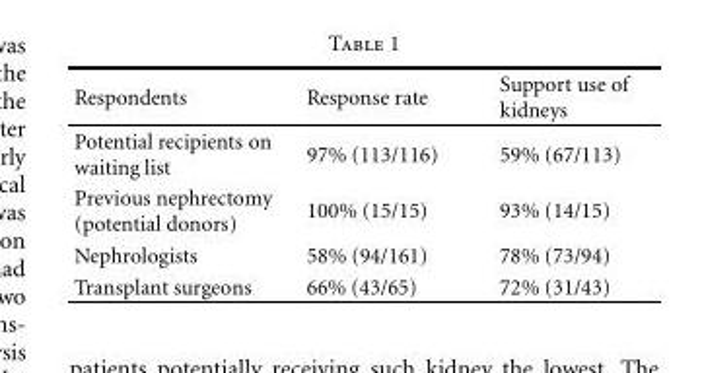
<table><thead><tr><td>Respondents</td><td>Response rate</td><td>Support use of kidneys</td></tr></thead><tbody><tr><td>Potential recipients on waiting list</td><td>97% (113/116)</td><td>59% (67/113)</td></tr><tr><td>Previous nephrectomy (potential donors)</td><td>100% (15/15)</td><td>93% (14/15)</td></tr><tr><td>Nephrologists</td><td>58% (94/161)</td><td>78% (73/94)</td></tr><tr><td>Transplant surgeons</td><td>66% (43/65)</td><td>72% (31/43)</td></tr></tbody></table>